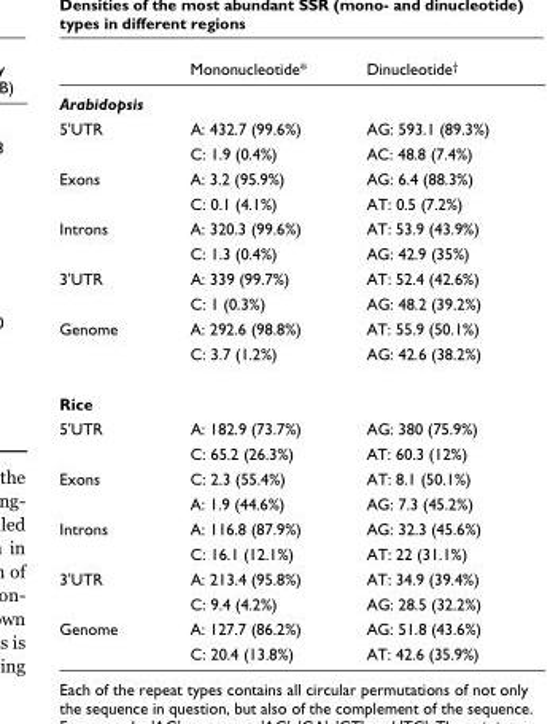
<table><thead><tr><td></td><td>Mononucleotide*</td><td>Dinucleotide†</td></tr></thead><tbody><tr><td colspan="3">Arabidopsis</td></tr><tr><td rowspan="2">5&#x27;UTR</td><td>A: 432.7 (99.6%)</td><td>AG: 593.1 (89.3%)</td></tr><tr><td>C: 1.9 (0.4%)</td><td>AC: 48.8 (7.4%)</td></tr><tr><td rowspan="2">Exons</td><td>A: 3.2 (95.9%)</td><td>AG: 6.4 (88.3%)</td></tr><tr><td>C: 0.1 (4.1%)</td><td>AT: 0.5 (7.2%)</td></tr><tr><td rowspan="2">Introns</td><td>A: 320.3 (99.6%)</td><td>AT: 53.9 (43.9%)</td></tr><tr><td>C: 1.3 (0.4%)</td><td>AG: 42.9 (35%)</td></tr><tr><td rowspan="2">3&#x27;UTR</td><td>A: 339 (99.7%)</td><td>AT: 52.4 (42.6%)</td></tr><tr><td>C: 1 (0.3%)</td><td>AG: 48.2 (39.2%)</td></tr><tr><td rowspan="2">Genome</td><td>A: 292.6 (98.8%)</td><td>AT: 55.9 (50.1%)</td></tr><tr><td>C: 3.7 (1.2%)</td><td>AG: 42.6 (38.2%)</td></tr><tr><td colspan="3">Rice</td></tr><tr><td rowspan="2">5&#x27;UTR</td><td>A: 182.9 (73.7%)</td><td>AG: 380 (75.9%)</td></tr><tr><td>C: 65.2 (26.3%)</td><td>AT: 60.3 (12%)</td></tr><tr><td rowspan="2">Exons</td><td>C: 2.3 (55.4%)</td><td>AT: 8.1 (50.1%)</td></tr><tr><td>A: 1.9 (44.6%)</td><td>AG: 7.3 (45.2%)</td></tr><tr><td rowspan="2">Introns</td><td>A: 116.8 (87.9%)</td><td>AG: 32.3 (45.6%)</td></tr><tr><td>C: 16.1 (12.1%)</td><td>AT: 22 (31.1%)</td></tr><tr><td rowspan="2">3&#x27;UTR</td><td>A: 213.4 (95.8%)</td><td>AT: 34.9 (39.4%)</td></tr><tr><td>C: 9.4 (4.2%)</td><td>AG: 28.5 (32.2%)</td></tr><tr><td rowspan="2">Genome</td><td>A: 127.7 (86.2%)</td><td>AG: 51.8 (43.6%)</td></tr><tr><td>C: 20.4 (13.8%)</td><td>AT: 42.6 (35.9%)</td></tr></tbody></table>